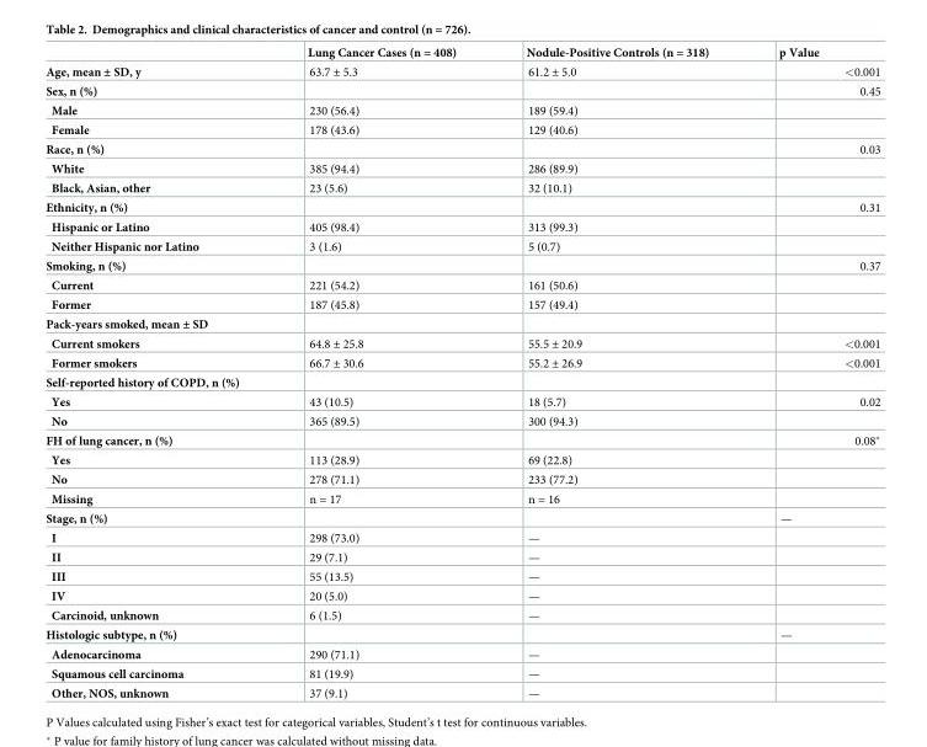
<table><thead><tr><td></td><td>Lung Cancer Cases (n = 408)</td><td>Nodule-Positive Controls (n = 318)</td><td>p Value</td></tr></thead><tbody><tr><td>Age, mean ± SD, y</td><td>63.7 ± 5.3</td><td>61.2 ± 5.0</td><td>&lt;0.001</td></tr><tr><td>Sex, n (%)</td><td></td><td></td><td>0.45</td></tr><tr><td>Male</td><td>230 (56.4)</td><td>189 (59.4)</td><td></td></tr><tr><td>Female</td><td>178 (43.6)</td><td>129 (40.6)</td><td></td></tr><tr><td>Race, n (%)</td><td></td><td></td><td>0.03</td></tr><tr><td>White</td><td>385 (94.4)</td><td>286 (89.9)</td><td></td></tr><tr><td>Black, Asian, other</td><td>23 (5.6)</td><td>32 (10.1)</td><td></td></tr><tr><td>Ethnicity, n (%)</td><td></td><td></td><td>0.31</td></tr><tr><td>Hispanic or Latino</td><td>405 (98.4)</td><td>313 (99.3)</td><td></td></tr><tr><td>Neither Hispanic nor Latino</td><td>3 (1.6)</td><td>5 (0.7)</td><td></td></tr><tr><td>Smoking, n (%)</td><td></td><td></td><td>0.37</td></tr><tr><td>Current</td><td>221 (54.2)</td><td>161 (50.6)</td><td></td></tr><tr><td>Former</td><td>187 (45.8)</td><td>157 (49.4)</td><td></td></tr><tr><td colspan="4">Pack-years smoked, mean ± SD</td></tr><tr><td>Current smokers</td><td>64.8 ± 25.8</td><td>55.5 ± 20.9</td><td>&lt;0.001</td></tr><tr><td>Former smokers</td><td>66.7 ± 30.6</td><td>55.2 ± 26.9</td><td>&lt;0.001</td></tr><tr><td colspan="4">Self-reported history of COPD, n (%)</td></tr><tr><td>Yes</td><td>43 (10.5)</td><td>18 (5.7)</td><td>0.02</td></tr><tr><td>No</td><td>365 (89.5)</td><td>300 (94.3)</td><td></td></tr><tr><td>FH of lung cancer, n (%)</td><td></td><td></td><td>0.08*</td></tr><tr><td>Yes</td><td>113 (28.9)</td><td>69 (22.8)</td><td></td></tr><tr><td>No</td><td>278 (71.1)</td><td>233 (77.2)</td><td></td></tr><tr><td>Missing</td><td>n = 17</td><td>n = 16</td><td></td></tr><tr><td>Stage, n (%)</td><td></td><td></td><td>—</td></tr><tr><td>I</td><td>298 (73.0)</td><td>—</td><td></td></tr><tr><td>II</td><td>29 (7.1)</td><td>—</td><td></td></tr><tr><td>III</td><td>55 (13.5)</td><td>—</td><td></td></tr><tr><td>IV</td><td>20 (5.0)</td><td>—</td><td></td></tr><tr><td>Carcinoid, unknown</td><td>6 (1.5)</td><td>—</td><td></td></tr><tr><td>Histologic subtype, n (%)</td><td></td><td></td><td>—</td></tr><tr><td>Adenocarcinoma</td><td>290 (71.1)</td><td>—</td><td></td></tr><tr><td>Squamous cell carcinoma</td><td>81 (19.9)</td><td>—</td><td></td></tr><tr><td>Other, NOS, unknown</td><td>37 (9.1)</td><td>—</td><td></td></tr></tbody></table>